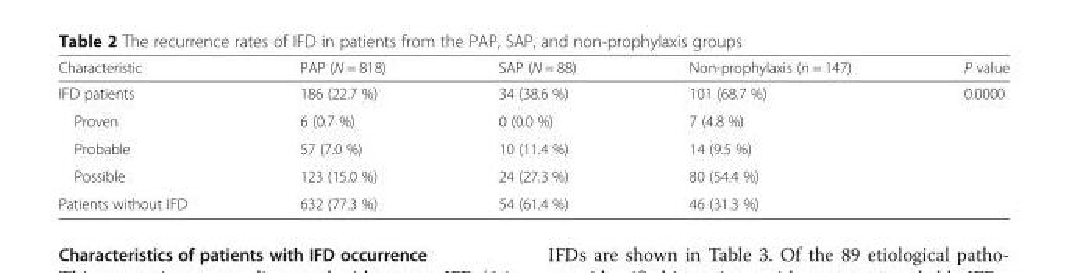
<table><thead><tr><td>Characteristic</td><td>PAP (N = 818)</td><td>SAP (N = 88)</td><td>Non-prophylaxis (n = 147)</td><td>P value</td></tr></thead><tbody><tr><td>IFD patients</td><td>186 (22.7 %)</td><td>34 (38.6 %)</td><td>101 (68.7 %)</td><td rowspan="4">0.0000</td></tr><tr><td>Proven</td><td>6 (0.7 %)</td><td>0 (0.0 %)</td><td>7 (4.8 %)</td></tr><tr><td>Probable</td><td>57 (7.0 %)</td><td>10 (11.4 %)</td><td>14 (9.5 %)</td></tr><tr><td>Possible</td><td>123 (15.0 %)</td><td>24 (27.3 %)</td><td>80 (54.4 %)</td></tr><tr><td>Patients without IFD</td><td>632 (77.3 %)</td><td>54 (61.4 %)</td><td>46 (31.3 %)</td><td></td></tr></tbody></table>